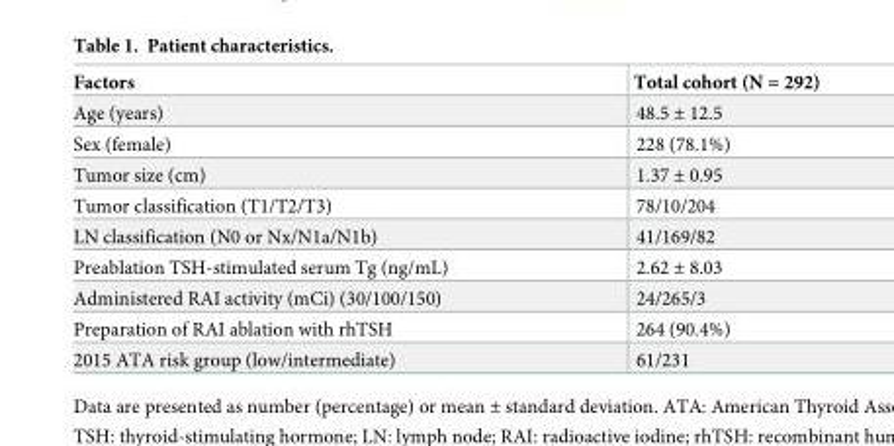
<table><thead><tr><td>Factors</td><td>Total cohort (N = 292)</td></tr></thead><tbody><tr><td>Age (years)</td><td>48.5 ± 12.5</td></tr><tr><td>Sex (female)</td><td>228 (78.1%)</td></tr><tr><td>Tumor size (cm)</td><td>1.37 ± 0.95</td></tr><tr><td>Tumor classification (T1/T2/T3)</td><td>78/10/204</td></tr><tr><td>LN classification (N0 or Nx/N1a/N1b)</td><td>41/169/82</td></tr><tr><td>Preablation TSH-stimulated serum Tg (ng/mL)</td><td>2.62 ± 8.03</td></tr><tr><td>Administered RAI activity (mCi) (30/100/150)</td><td>24/265/3</td></tr><tr><td>Preparation of RAI ablation with rhTSH</td><td>264 (90.4%)</td></tr><tr><td>2015 ATA risk group (low/intermediate)</td><td>61/231</td></tr></tbody></table>